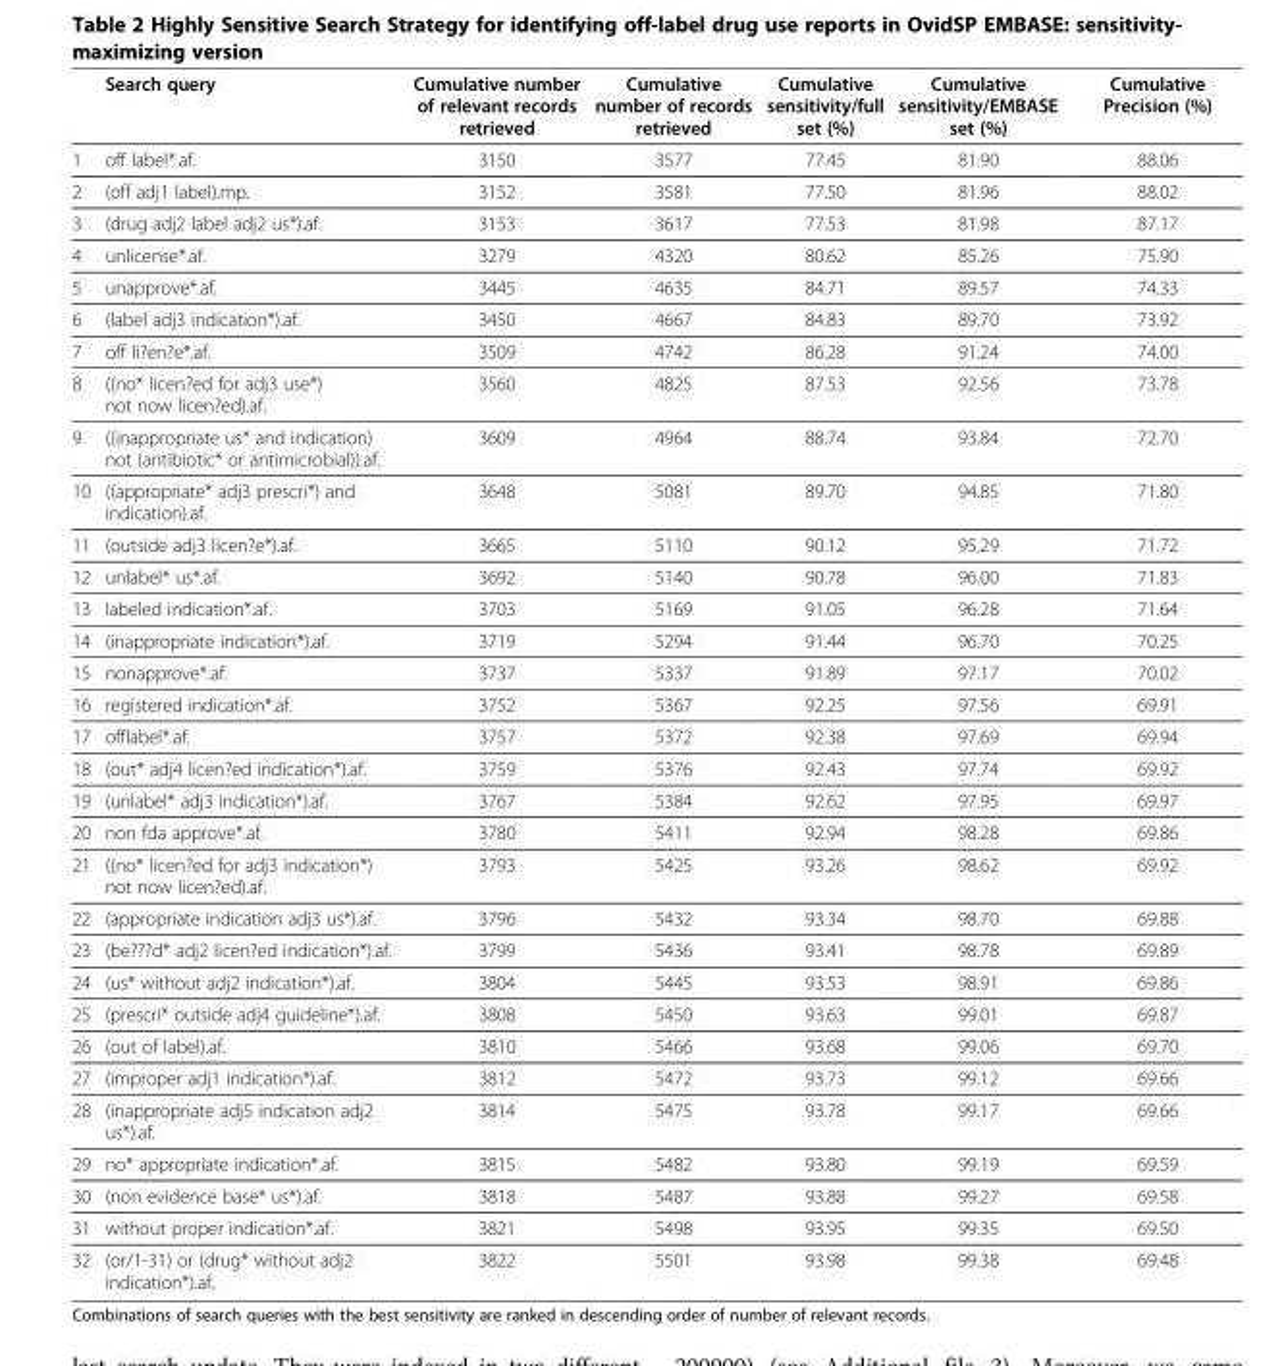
<table><thead><tr><td></td><td>Search query</td><td>Cumulative number of relevant records retrieved</td><td>Cumulative number of records retrieved</td><td>Cumulative sensitivity/full set (%)</td><td>Cumulative sensitivity/EMBASE set (%)</td><td>Cumulative Precision (%)</td></tr></thead><tbody><tr><td>1</td><td>off label*.af.</td><td>3150</td><td>3577</td><td>77.45</td><td>81.90</td><td>88.06</td></tr><tr><td>2</td><td>(off adj1 label).mp.</td><td>3152</td><td>3581</td><td>77.50</td><td>81.96</td><td>88.02</td></tr><tr><td>3</td><td>(drug adj2 label adj2 us*).af.</td><td>3153</td><td>3617</td><td>77.53</td><td>81.98</td><td>87.17</td></tr><tr><td>4</td><td>unlicense*.af.</td><td>3279</td><td>4320</td><td>80.62</td><td>85.26</td><td>75.90</td></tr><tr><td>5</td><td>unapprove*.af.</td><td>3445</td><td>4635</td><td>84.71</td><td>89.57</td><td>74.33</td></tr><tr><td>6</td><td>(label adj3 indication*).af.</td><td>3450</td><td>4667</td><td>84.83</td><td>89.70</td><td>73.92</td></tr><tr><td>7</td><td>off li?en?e*.af.</td><td>3509</td><td>4742</td><td>86.28</td><td>91.24</td><td>74.00</td></tr><tr><td>8</td><td>((no* licen?ed for adj3 use*) not now licen?ed).af.</td><td>3560</td><td>4825</td><td>87.53</td><td>92.56</td><td>73.78</td></tr><tr><td>9</td><td>((inappropriate us* and indication) not (antibiotic* or antimicrobial)).af.</td><td>3609</td><td>4964</td><td>88.74</td><td>93.84</td><td>72.70</td></tr><tr><td>10</td><td>((appropriate* adj3 prescri*) and indication).af.</td><td>3648</td><td>5081</td><td>89.70</td><td>94.85</td><td>71.80</td></tr><tr><td>11</td><td>(outside adj3 licen?e*).af.</td><td>3665</td><td>5110</td><td>90.12</td><td>95.29</td><td>71.72</td></tr><tr><td>12</td><td>unlabel* us*.af.</td><td>3692</td><td>5140</td><td>90.78</td><td>96.00</td><td>71.83</td></tr><tr><td>13</td><td>labeled indication*.af.</td><td>3703</td><td>5169</td><td>91.05</td><td>96.28</td><td>71.64</td></tr><tr><td>14</td><td>(inappropriate indication*).af.</td><td>3719</td><td>5294</td><td>91.44</td><td>96.70</td><td>70.25</td></tr><tr><td>15</td><td>nonapprove*.af.</td><td>3737</td><td>5337</td><td>91.89</td><td>97.17</td><td>70.02</td></tr><tr><td>16</td><td>registered indication*.af.</td><td>3752</td><td>5367</td><td>92.25</td><td>97.56</td><td>69.91</td></tr><tr><td>17</td><td>offlabel*.af.</td><td>3757</td><td>5372</td><td>92.38</td><td>97.69</td><td>69.94</td></tr><tr><td>18</td><td>(out* adj4 licen?ed indication*).af.</td><td>3759</td><td>5376</td><td>92.43</td><td>97.74</td><td>69.92</td></tr><tr><td>19</td><td>(unlabel* adj3 indication*).af.</td><td>3767</td><td>5384</td><td>92.62</td><td>97.95</td><td>69.97</td></tr><tr><td>20</td><td>non fda approve*.af.</td><td>3780</td><td>5411</td><td>92.94</td><td>98.28</td><td>69.86</td></tr><tr><td>21</td><td>((no* licen?ed for adj3 indication*) not now licen?ed).af.</td><td>3793</td><td>5425</td><td>93.26</td><td>98.62</td><td>69.92</td></tr><tr><td>22</td><td>(appropriate indication adj3 us*).af.</td><td>3796</td><td>5432</td><td>93.34</td><td>98.70</td><td>69.88</td></tr><tr><td>23</td><td>(be???d* adj2 licen?ed indication*).af.</td><td>3799</td><td>5436</td><td>93.41</td><td>98.78</td><td>69.89</td></tr><tr><td>24</td><td>(us* without adj2 indication*).af.</td><td>3804</td><td>5445</td><td>93.53</td><td>98.91</td><td>69.86</td></tr><tr><td>25</td><td>(prescri* outside adj4 guideline*).af.</td><td>3808</td><td>5450</td><td>93.63</td><td>99.01</td><td>69.87</td></tr><tr><td>26</td><td>(out of label).af.</td><td>3810</td><td>5466</td><td>93.68</td><td>99.06</td><td>69.70</td></tr><tr><td>27</td><td>(improper adj1 indication*).af.</td><td>3812</td><td>5472</td><td>93.73</td><td>99.12</td><td>69.66</td></tr><tr><td>28</td><td>(inappropriate adj5 indication adj2 us*).af.</td><td>3814</td><td>5475</td><td>93.78</td><td>99.17</td><td>69.66</td></tr><tr><td>29</td><td>no* appropriate indication*.af.</td><td>3815</td><td>5482</td><td>93.80</td><td>99.19</td><td>69.59</td></tr><tr><td>30</td><td>(non evidence base* us*).af.</td><td>3818</td><td>5487</td><td>93.88</td><td>99.27</td><td>69.58</td></tr><tr><td>31</td><td>without proper indication*.af.</td><td>3821</td><td>5498</td><td>93.95</td><td>99.35</td><td>69.50</td></tr><tr><td>32</td><td>(or/1-31) or (drug* without adj2 indication*).af.</td><td>3822</td><td>5501</td><td>93.98</td><td>99.38</td><td>69.48</td></tr></tbody></table>